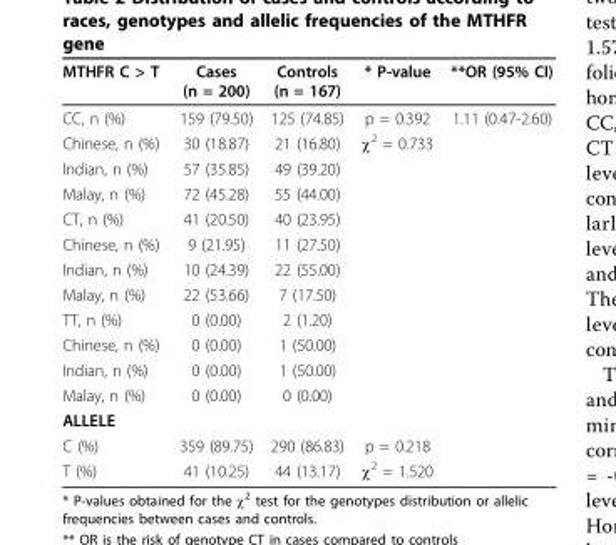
<table><thead><tr><td>MTHFR C &gt; T</td><td>Cases (n = 200)</td><td>Controls (n = 167)</td><td>* P-value</td><td>**OR (95% CI)</td></tr></thead><tbody><tr><td>CC, n (%)</td><td>159 (79.50)</td><td>125 (74.85)</td><td>p = 0.392</td><td>1.11 (0.47-2.60)</td></tr><tr><td>Chinese, n (%)</td><td>30 (18.87)</td><td>21 (16.80)</td><td>χ<sup>2</sup> = 0.733</td><td></td></tr><tr><td>Indian, n (%)</td><td>57 (35.85)</td><td>49 (39.20)</td><td></td><td></td></tr><tr><td>Malay, n (%)</td><td>72 (45.28)</td><td>55 (44.00)</td><td></td><td></td></tr><tr><td>CT, n (%)</td><td>41 (20.50)</td><td>40 (23.95)</td><td></td><td></td></tr><tr><td>Chinese, n (%)</td><td>9 (21.95)</td><td>11 (27.50)</td><td></td><td></td></tr><tr><td>Indian, n (%)</td><td>10 (24.39)</td><td>22 (55.00)</td><td></td><td></td></tr><tr><td>Malay, n (%)</td><td>22 (53.66)</td><td>7 (17.50)</td><td></td><td></td></tr><tr><td>TT, n (%)</td><td>0 (0.00)</td><td>2 (1.20)</td><td></td><td></td></tr><tr><td>Chinese, n (%)</td><td>0 (0.00)</td><td>1 (50.00)</td><td></td><td></td></tr><tr><td>Indian, n (%)</td><td>0 (0.00)</td><td>1 (50.00)</td><td></td><td></td></tr><tr><td>Malay, n (%)</td><td>0 (0.00)</td><td>0 (0.00)</td><td></td><td></td></tr><tr><td colspan="5">ALLELE</td></tr><tr><td>C (%)</td><td>359 (89.75)</td><td>290 (86.83)</td><td>p = 0.218</td><td></td></tr><tr><td>T (%)</td><td>41 (10.25)</td><td>44 (13.17)</td><td>χ<sup>2</sup> = 1.520</td><td></td></tr></tbody></table>